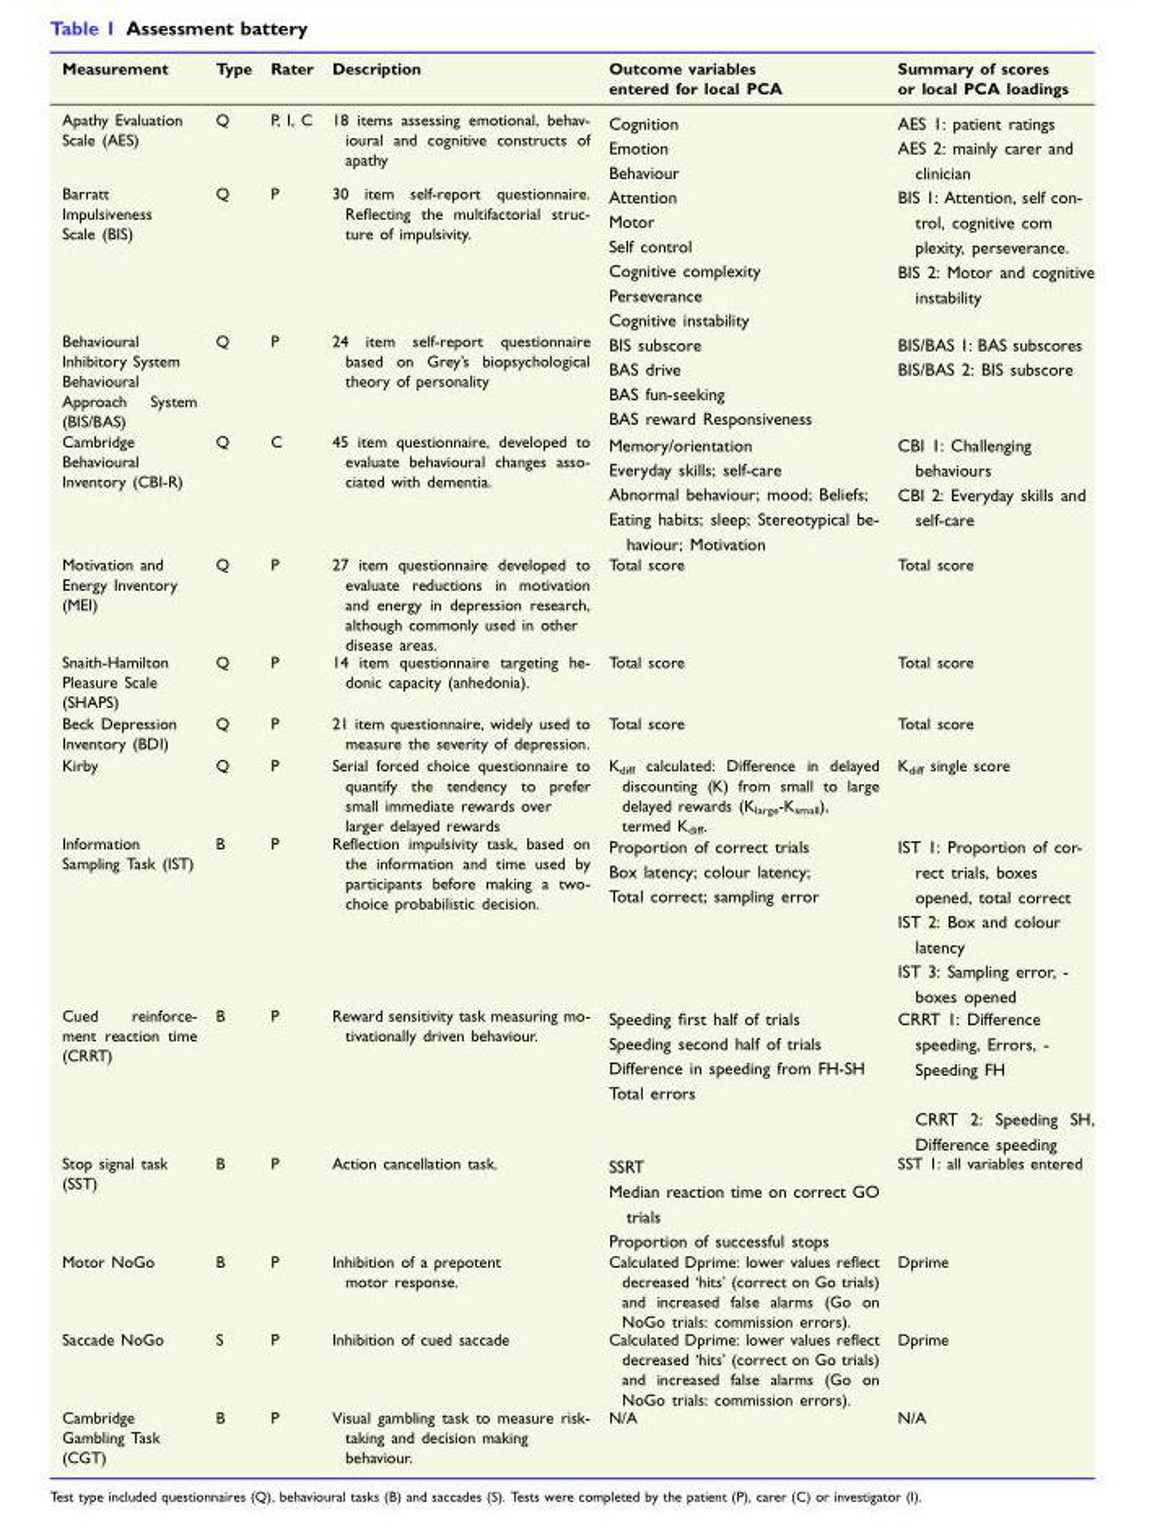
<table><thead><tr><td>Measurement</td><td>Type</td><td>Rater</td><td>Description</td><td>Outcome variables entered for local PCA</td><td>Summary of scores or local PCA loadings</td></tr></thead><tbody><tr><td>Apathy Evaluation Scale (AES)</td><td>Q</td><td>P, I, C</td><td>18 items assessing emotional, behav- ioural and cognitive constructs of apathy</td><td>Cognition Emotion Behaviour</td><td>AES 1: patient ratings AES 2: mainly carer and clinician</td></tr><tr><td>Barratt Impulsiveness Scale (BIS)</td><td>Q</td><td>P</td><td>30 item self-report questionnaire. Reflecting the multifactorial struc- ture of impulsivity.</td><td>Attention Motor Self control Cognitive complexity Perseverance Cognitive instability</td><td>BIS 1: Attention, self con- trol, cognitive com plexity, perseverance. BIS 2: Motor and cognitive instability</td></tr><tr><td>Behavioural Inhibitory System Behavioural Approach System (BIS/BAS)</td><td>Q</td><td>P</td><td>24 item self-report questionnaire based on Grey’s biopsychological theory of personality</td><td>BIS subscore BAS drive BAS fun-seeking BAS reward Responsiveness</td><td>BIS/BAS 1: BAS subscores BIS/BAS 2: BIS subscore</td></tr><tr><td>Cambridge Behavioural Inventory (CBI-R)</td><td>Q</td><td>C</td><td>45 item questionnaire, developed to evaluate behavioural changes asso- ciated with dementia.</td><td>Memory/orientation Everyday skills; self-care Abnormal behaviour; mood; Beliefs; Eating habits; sleep; Stereotypical be- haviour; Motivation</td><td>CBI 1: Challenging behaviours CBI 2: Everyday skills and self-care</td></tr><tr><td>Motivation and Energy Inventory (MEI)</td><td>Q</td><td>P</td><td>27 item questionnaire developed to evaluate reductions in motivation and energy in depression research, although commonly used in other disease areas.</td><td>Total score</td><td>Total score</td></tr><tr><td>Snaith-Hamilton Pleasure Scale (SHAPS)</td><td>Q</td><td>P</td><td>14 item questionnaire targeting he- donic capacity (anhedonia).</td><td>Total score</td><td>Total score</td></tr><tr><td>Beck Depression Inventory (BDI)</td><td>Q</td><td>P</td><td>21 item questionnaire, widely used to measure the severity of depression.</td><td>Total score</td><td>Total score</td></tr><tr><td>Kirby</td><td>Q</td><td>P</td><td>Serial forced choice questionnaire to quantify the tendency to prefer small immediate rewards over larger delayed rewards</td><td>K<sub>diff</sub> calculated: Difference in delayed discounting (K) from small to large delayed rewards (K<sub>large</sub>-K<sub>small</sub>), termed K<sub>diff</sub>.</td><td>K<sub>diff</sub> single score</td></tr><tr><td>Information Sampling Task (IST)</td><td>B</td><td>P</td><td>Reflection impulsivity task, based on the information and time used by participants before making a two- choice probabilistic decision.</td><td>Proportion of correct trials Box latency; colour latency; Total correct; sampling error</td><td>IST 1: Proportion of cor- rect trials, boxes opened, total correct IST 2: Box and colour latency IST 3: Sampling error, - boxes opened</td></tr><tr><td>Cued reinforce- ment reaction time (CRRT)</td><td>B</td><td>P</td><td>Reward sensitivity task measuring mo- tivationally driven behaviour.</td><td>Speeding first half of trials Speeding second half of trials Difference in speeding from FH-SH Total errors</td><td>CRRT 1: Difference speeding, Errors, - Speeding FH CRRT 2: Speeding SH, Difference speeding</td></tr><tr><td>Stop signal task (SST)</td><td>B</td><td>P</td><td>Action cancellation task.</td><td>SSRT Median reaction time on correct GO trials Proportion of successful stops</td><td>SST 1: all variables entered</td></tr><tr><td>Motor NoGo</td><td>B</td><td>P</td><td>Inhibition of a prepotent motor response.</td><td>Calculated Dprime: lower values reflect decreased ‘hits’ (correct on Go trials) and increased false alarms (Go on NoGo trials: commission errors).</td><td>Dprime</td></tr><tr><td>Saccade NoGo</td><td>S</td><td>P</td><td>Inhibition of cued saccade</td><td>Calculated Dprime: lower values reflect decreased ‘hits’ (correct on Go trials) and increased false alarms (Go on NoGo trials: commission errors).</td><td>Dprime</td></tr><tr><td>Cambridge Gambling Task (CGT)</td><td>B</td><td>P</td><td>Visual gambling task to measure risk- taking and decision making behaviour.</td><td>N/A</td><td>N/A</td></tr></tbody></table>